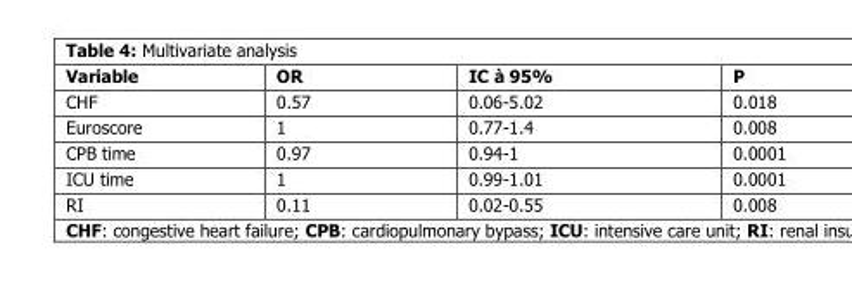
<table><thead><tr><td>Variable</td><td>OR</td><td>IC à 95%</td><td>P</td></tr></thead><tbody><tr><td>CHF</td><td>0.57</td><td>0.06-5.02</td><td>0.018</td></tr><tr><td>Euroscore</td><td>1</td><td>0.77-1.4</td><td>0.008</td></tr><tr><td>CPB time</td><td>0.97</td><td>0.94-1</td><td>0.0001</td></tr><tr><td>ICU time</td><td>1</td><td>0.99-1.01</td><td>0.0001</td></tr><tr><td>RI</td><td>0.11</td><td>0.02-0.55</td><td>0.008</td></tr></tbody></table>